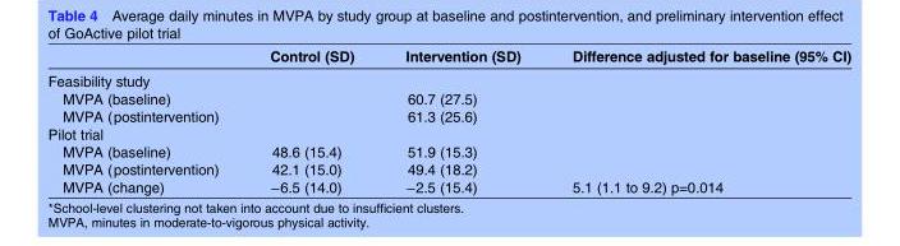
<table><thead><tr><td></td><td>Control (SD)</td><td>Intervention (SD)</td><td>Difference adjusted for baseline (95% CI)</td></tr></thead><tbody><tr><td colspan="4">Feasibility study</td></tr><tr><td>MVPA (baseline)</td><td></td><td>60.7 (27.5)</td><td></td></tr><tr><td>MVPA (postintervention)</td><td></td><td>61.3 (25.6)</td><td></td></tr><tr><td colspan="4">Pilot trial</td></tr><tr><td>MVPA (baseline)</td><td>48.6 (15.4)</td><td>51.9 (15.3)</td><td></td></tr><tr><td>MVPA (postintervention)</td><td>42.1 (15.0)</td><td>49.4 (18.2)</td><td></td></tr><tr><td>MVPA (change)</td><td>−6.5 (14.0)</td><td>−2.5 (15.4)</td><td>5.1 (1.1 to 9.2) p=0.014</td></tr></tbody></table>